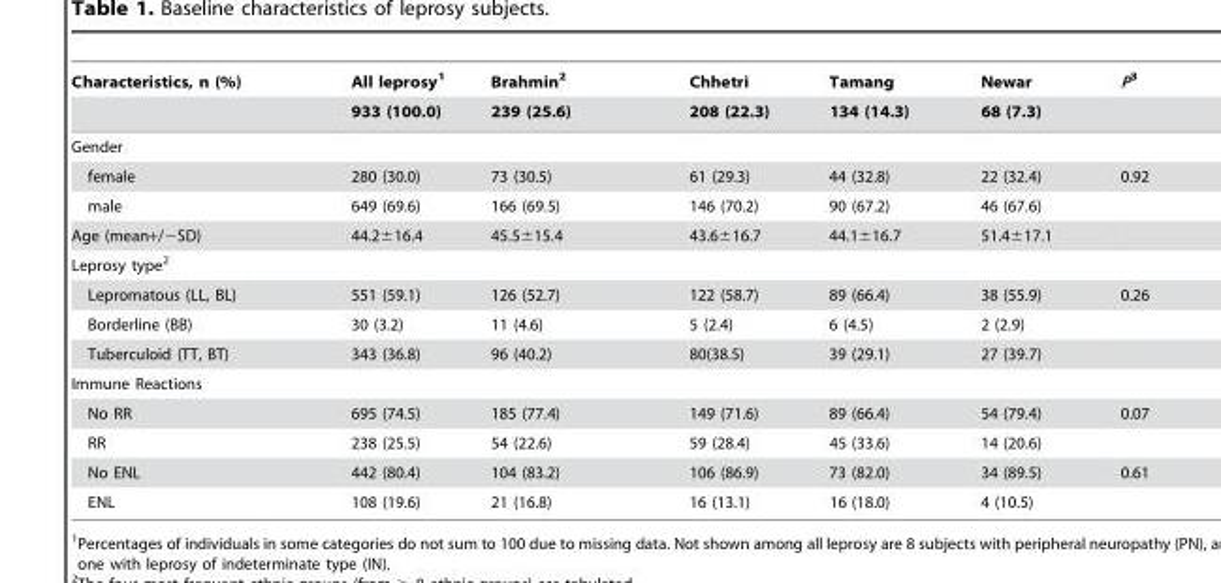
<table><thead><tr><td rowspan="2">Characteristics, n (%)</td><td rowspan="2">All leprosy<sup>1</sup> 933 (100.0)</td><td rowspan="2">Brahmin<sup>2</sup> 239 (25.6)</td><td rowspan="2">Chhetri 208 (22.3)</td><td rowspan="2">Tamang 134 (14.3)</td><td rowspan="2">Newar 68 (7.3)</td><td rowspan="2">P3</td></tr><tr></tr></thead><tbody><tr><td colspan="7">Gender</td></tr><tr><td>female</td><td>280 (30.0)</td><td>73 (30.5)</td><td>61 (29.3)</td><td>44 (32.8)</td><td>22 (32.4)</td><td>0.92</td></tr><tr><td>male</td><td>649 (69.6)</td><td>166 (69.5)</td><td>146 (70.2)</td><td>90 (67.2)</td><td>46 (67.6)</td><td></td></tr><tr><td>Age (mean+/−SD)</td><td>44.2±16.4</td><td>45.5±15.4</td><td>43.6±16.7</td><td>44.1±16.7</td><td>51.4±17.1</td><td></td></tr><tr><td colspan="7">Leprosy type<sup>2</sup></td></tr><tr><td>Lepromatous (LL, BL)</td><td>551 (59.1)</td><td>126 (52.7)</td><td>122 (58.7)</td><td>89 (66.4)</td><td>38 (55.9)</td><td>0.26</td></tr><tr><td>Borderline (BB)</td><td>30 (3.2)</td><td>11 (4.6)</td><td>5 (2.4)</td><td>6 (4.5)</td><td>2 (2.9)</td><td></td></tr><tr><td>Tuberculoid (TT, BT)</td><td>343 (36.8)</td><td>96 (40.2)</td><td>80(38.5)</td><td>39 (29.1)</td><td>27 (39.7)</td><td></td></tr><tr><td colspan="7">Immune Reactions</td></tr><tr><td>No RR</td><td>695 (74.5)</td><td>185 (77.4)</td><td>149 (71.6)</td><td>89 (66.4)</td><td>54 (79.4)</td><td>0.07</td></tr><tr><td>RR</td><td>238 (25.5)</td><td>54 (22.6)</td><td>59 (28.4)</td><td>45 (33.6)</td><td>14 (20.6)</td><td></td></tr><tr><td>No ENL</td><td>442 (80.4)</td><td>104 (83.2)</td><td>106 (86.9)</td><td>73 (82.0)</td><td>34 (89.5)</td><td>0.61</td></tr><tr><td>ENL</td><td>108 (19.6)</td><td>21 (16.8)</td><td>16 (13.1)</td><td>16 (18.0)</td><td>4 (10.5)</td><td></td></tr></tbody></table>